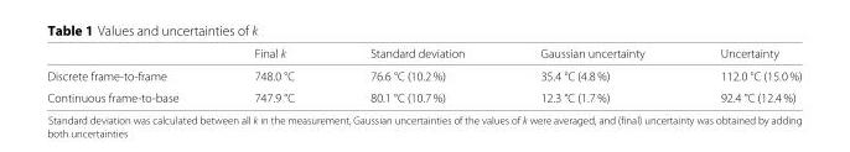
<table><thead><tr><td></td><td>Final k</td><td>Standard deviation</td><td>Gaussian uncertainty</td><td>Uncertainty</td></tr></thead><tbody><tr><td>Discrete frame-to-frame</td><td>748.0 °C</td><td>76.6 °C (10.2 %)</td><td>35.4 °C (4.8 %)</td><td>112.0 °C (15.0 %)</td></tr><tr><td>Continuous frame-to-base</td><td>747.9 °C</td><td>80.1 °C (10.7 %)</td><td>12.3 °C (1.7 %)</td><td>92.4 °C (12.4 %)</td></tr></tbody></table>